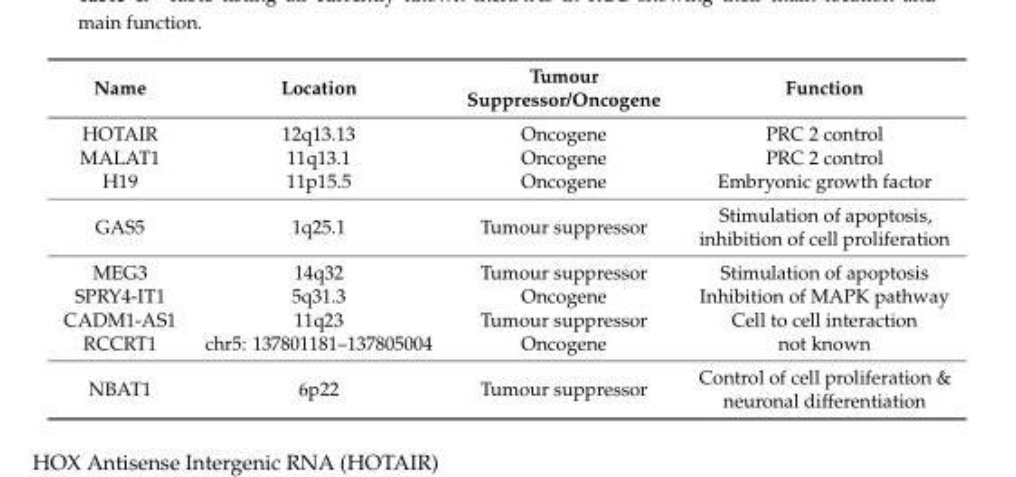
<table><thead><tr><td>Name</td><td>Location</td><td>Tumour Suppressor/Oncogene</td><td>Function</td></tr></thead><tbody><tr><td>HOTAIR</td><td>12q13.13</td><td>Oncogene</td><td>PRC 2 control</td></tr><tr><td>MALAT1</td><td>11q13.1</td><td>Oncogene</td><td>PRC 2 control</td></tr><tr><td>H19</td><td>11p15.5</td><td>Oncogene</td><td>Embryonic growth factor</td></tr><tr><td>GAS5</td><td>1q25.1</td><td>Tumour suppressor</td><td>Stimulation of apoptosis, inhibition of cell proliferation</td></tr><tr><td>MEG3</td><td>14q32</td><td>Tumour suppressor</td><td>Stimulation of apoptosis</td></tr><tr><td>SPRY4-IT1</td><td>5q31.3</td><td>Oncogene</td><td>Inhibition of MAPK pathway</td></tr><tr><td>CADM1-AS1</td><td>11q23</td><td>Tumour suppressor</td><td>Cell to cell interaction</td></tr><tr><td>RCCRT1</td><td>chr5: 137801181–137805004</td><td>Oncogene</td><td>not known</td></tr><tr><td>NBAT1</td><td>6p22</td><td>Tumour suppressor</td><td>Control of cell proliferation &amp; neuronal differentiation</td></tr></tbody></table>